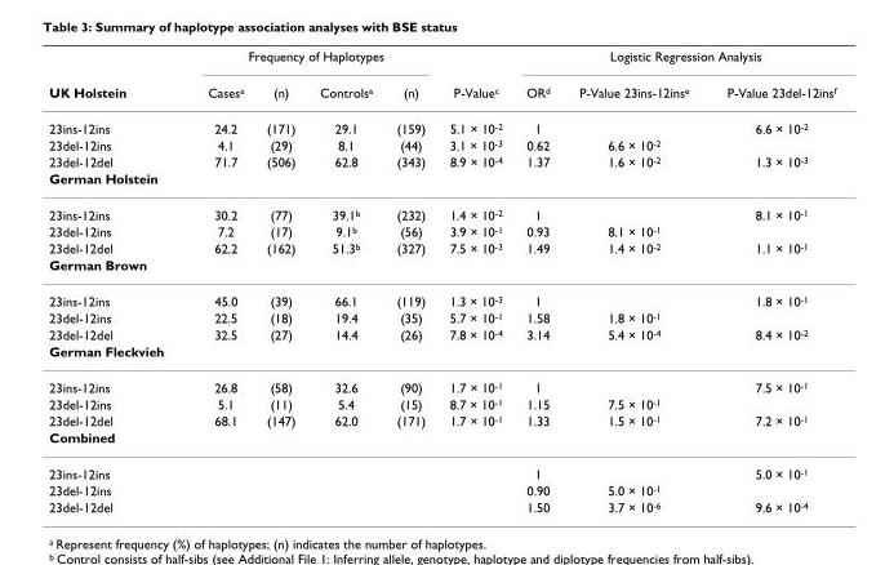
<table><thead><tr><td rowspan="2">UK Holstein</td><td colspan="4">Frequency of Haplotypes</td><td rowspan="2">P-Valuec</td><td colspan="3">Logistic Regression Analysis</td></tr><tr><td>Casesa</td><td>(n)</td><td>Controlsa</td><td>(n)</td><td>ORd</td><td>P-Value 23ins-12inse</td><td>P-Value 23del-12insf</td></tr></thead><tbody><tr><td>23ins-12ins</td><td>24.2</td><td>(171)</td><td>29.1</td><td>(159)</td><td>5.1 × 10-2</td><td>1</td><td></td><td>6.6 × 10-2</td></tr><tr><td>23del-12ins</td><td>4.1</td><td>(29)</td><td>8.1</td><td>(44)</td><td>3.1 × 10-3</td><td>0.62</td><td>6.6 × 10-2</td><td></td></tr><tr><td>23del-12del</td><td>71.7</td><td>(506)</td><td>62.8</td><td>(343)</td><td>8.9 × 10-4</td><td>1.37</td><td>1.6 × 10-2</td><td>1.3 × 10-3</td></tr><tr><td colspan="9">German Holstein</td></tr><tr><td>23ins-12ins</td><td>30.2</td><td>(77)</td><td>39.1b</td><td>(232)</td><td>1.4 × 10-2</td><td>1</td><td></td><td>8.1 × 10-1</td></tr><tr><td>23del-12ins</td><td>7.2</td><td>(17)</td><td>9.1b</td><td>(56)</td><td>3.9 × 10-1</td><td>0.93</td><td>8.1 × 10-1</td><td></td></tr><tr><td>23del-12del</td><td>62.2</td><td>(162)</td><td>51.3b</td><td>(327)</td><td>7.5 × 10-3</td><td>1.49</td><td>1.4 × 10-2</td><td>1.1 × 10-1</td></tr><tr><td colspan="9">German Brown</td></tr><tr><td>23ins-12ins</td><td>45.0</td><td>(39)</td><td>66.1</td><td>(119)</td><td>1.3 × 10-3</td><td>1</td><td></td><td>1.8 × 10-1</td></tr><tr><td>23del-12ins</td><td>22.5</td><td>(18)</td><td>19.4</td><td>(35)</td><td>5.7 × 10-1</td><td>1.58</td><td>1.8 × 10-1</td><td></td></tr><tr><td>23del-12del</td><td>32.5</td><td>(27)</td><td>14.4</td><td>(26)</td><td>7.8 × 10-4</td><td>3.14</td><td>5.4 × 10-4</td><td>8.4 × 10-2</td></tr><tr><td colspan="9">German Fleckvieh</td></tr><tr><td>23ins-12ins</td><td>26.8</td><td>(58)</td><td>32.6</td><td>(90)</td><td>1.7 × 10-1</td><td>1</td><td></td><td>7.5 × 10-1</td></tr><tr><td>23del-12ins</td><td>5.1</td><td>(11)</td><td>5.4</td><td>(15)</td><td>8.7 × 10-1</td><td>1.15</td><td>7.5 × 10-1</td><td></td></tr><tr><td>23del-12del</td><td>68.1</td><td>(147)</td><td>62.0</td><td>(171)</td><td>1.7 × 10-1</td><td>1.33</td><td>1.5 × 10-1</td><td>7.2 × 10-1</td></tr><tr><td colspan="9">Combined</td></tr><tr><td>23ins-12ins</td><td></td><td></td><td></td><td></td><td></td><td>1</td><td></td><td>5.0 × 10-1</td></tr><tr><td>23del-12ins</td><td></td><td></td><td></td><td></td><td></td><td>0.90</td><td>5.0 × 10-1</td><td></td></tr><tr><td>23del-12del</td><td></td><td></td><td></td><td></td><td></td><td>1.50</td><td>3.7 × 10-6</td><td>9.6 × 10-4</td></tr></tbody></table>